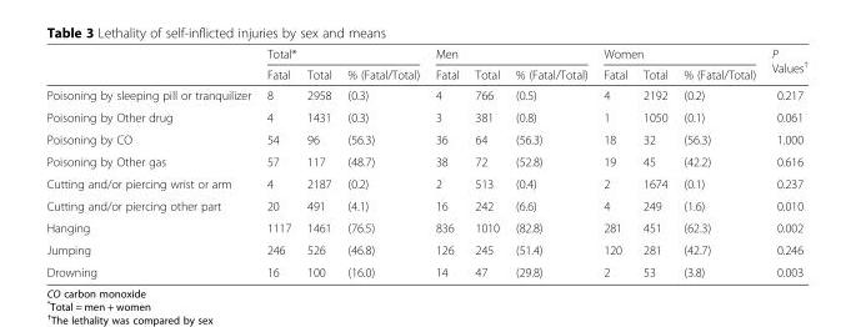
<table><thead><tr><td rowspan="2"></td><td colspan="3">Total*</td><td colspan="3">Men</td><td colspan="3">Women</td><td rowspan="2">P Values<sup>†</sup></td></tr><tr><td>Fatal</td><td>Total</td><td>% (Fatal/Total)</td><td>Fatal</td><td>Total</td><td>% (Fatal/Total)</td><td>Fatal</td><td>Total</td><td>% (Fatal/Total)</td></tr></thead><tbody><tr><td>Poisoning by sleeping pill or tranquilizer</td><td>8</td><td>2958</td><td>(0.3)</td><td>4</td><td>766</td><td>(0.5)</td><td>4</td><td>2192</td><td>(0.2)</td><td>0.217</td></tr><tr><td>Poisoning by Other drug</td><td>4</td><td>1431</td><td>(0.3)</td><td>3</td><td>381</td><td>(0.8)</td><td>1</td><td>1050</td><td>(0.1)</td><td>0.061</td></tr><tr><td>Poisoning by CO</td><td>54</td><td>96</td><td>(56.3)</td><td>36</td><td>64</td><td>(56.3)</td><td>18</td><td>32</td><td>(56.3)</td><td>1.000</td></tr><tr><td>Poisoning by Other gas</td><td>57</td><td>117</td><td>(48.7)</td><td>38</td><td>72</td><td>(52.8)</td><td>19</td><td>45</td><td>(42.2)</td><td>0.616</td></tr><tr><td>Cutting and/or piercing wrist or arm</td><td>4</td><td>2187</td><td>(0.2)</td><td>2</td><td>513</td><td>(0.4)</td><td>2</td><td>1674</td><td>(0.1)</td><td>0.237</td></tr><tr><td>Cutting and/or piercing other part</td><td>20</td><td>491</td><td>(4.1)</td><td>16</td><td>242</td><td>(6.6)</td><td>4</td><td>249</td><td>(1.6)</td><td>0.010</td></tr><tr><td>Hanging</td><td>1117</td><td>1461</td><td>(76.5)</td><td>836</td><td>1010</td><td>(82.8)</td><td>281</td><td>451</td><td>(62.3)</td><td>0.002</td></tr><tr><td>Jumping</td><td>246</td><td>526</td><td>(46.8)</td><td>126</td><td>245</td><td>(51.4)</td><td>120</td><td>281</td><td>(42.7)</td><td>0.246</td></tr><tr><td>Drowning</td><td>16</td><td>100</td><td>(16.0)</td><td>14</td><td>47</td><td>(29.8)</td><td>2</td><td>53</td><td>(3.8)</td><td>0.003</td></tr></tbody></table>